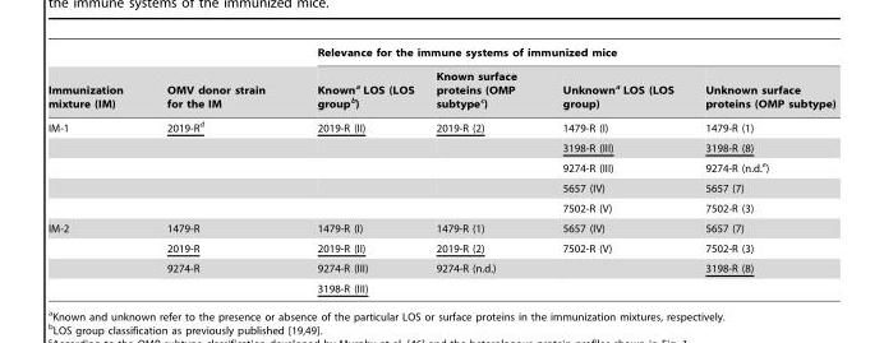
<table><thead><tr><td rowspan="2">Immunization mixture (IM)</td><td rowspan="2">OMV donor strain for the IM</td><td colspan="4">Relevance for the immune systems of immunized mice</td></tr><tr><td>Known<sup>a</sup> LOS (LOS group<sup>b</sup>)</td><td>Known surface proteins (OMP subtype<sup>c</sup>)</td><td>Unknown<sup>a</sup> LOS (LOS group)</td><td>Unknown surface proteins (OMP subtype)</td></tr></thead><tbody><tr><td rowspan="5">IM-1</td><td>2019-Rd</td><td>2019-R (II)</td><td>2019-R (2)</td><td>1479-R (I)</td><td>1479-R (1)</td></tr><tr><td></td><td></td><td></td><td>3198-R (III)</td><td>3198-R (8)</td></tr><tr><td></td><td></td><td></td><td>9274-R (III)</td><td>9274-R (n.d.<sup>e</sup>)</td></tr><tr><td></td><td></td><td></td><td>5657 (IV)</td><td>5657 (7)</td></tr><tr><td></td><td></td><td></td><td>7502-R (V)</td><td>7502-R (3)</td></tr><tr><td rowspan="4">IM-2</td><td>1479-R</td><td>1479-R (I)</td><td>1479-R (1)</td><td>5657 (IV)</td><td>5657 (7)</td></tr><tr><td>2019-R</td><td>2019-R (II)</td><td>2019-R (2)</td><td>7502-R (V)</td><td>7502-R (3)</td></tr><tr><td>9274-R</td><td>9274-R (III)</td><td>9274-R (n.d.)</td><td></td><td>3198-R (8)</td></tr><tr><td></td><td>3198-R (III)</td><td></td><td></td><td></td></tr></tbody></table>